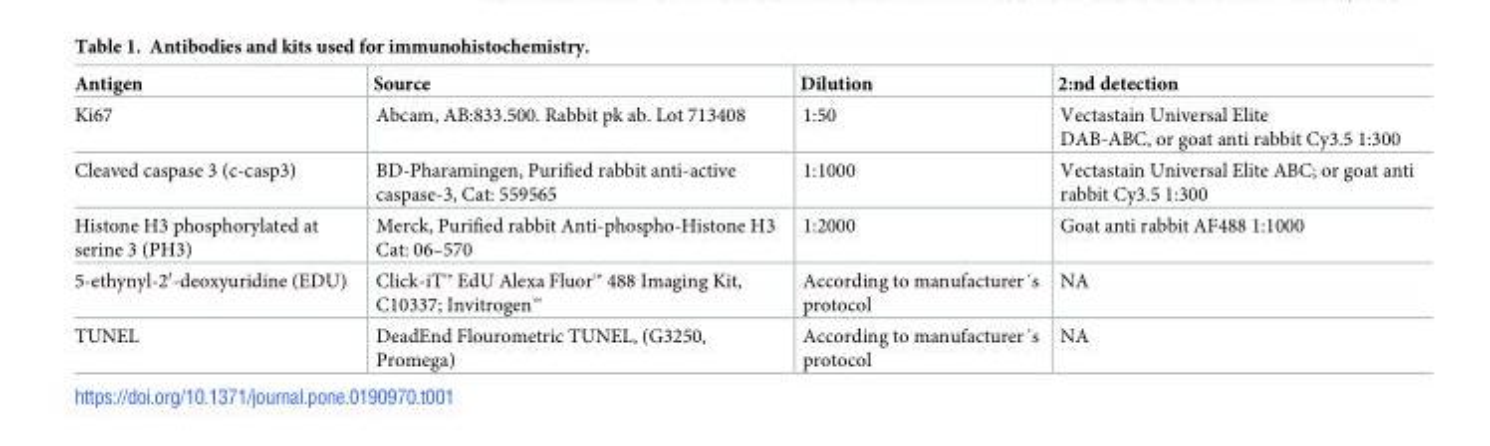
<table><thead><tr><td>Antigen</td><td>Source</td><td>Dilution</td><td>2:nd detection</td></tr></thead><tbody><tr><td>Ki67</td><td>Abcam, AB:833.500. Rabbit pk ab. Lot 713408</td><td>1:50</td><td>Vectastain Universal Elite DAB-ABC, or goat anti rabbit Cy3.5 1:300</td></tr><tr><td>Cleaved caspase 3 (c-casp3)</td><td>BD-Pharamingen, Purified rabbit anti-active caspase-3, Cat: 559565</td><td>1:1000</td><td>Vectastain Universal Elite ABC; or goat anti rabbit Cy3.5 1:300</td></tr><tr><td>Histone H3 phosphorylated at serine 3 (PH3)</td><td>Merck, Purified rabbit Anti-phospho-Histone H3 Cat: 06–570</td><td>1:2000</td><td>Goat anti rabbit AF488 1:1000</td></tr><tr><td>5-ethynyl-2′-deoxyuridine (EDU)</td><td>Click-iT™ EdU Alexa Fluor™ 488 Imaging Kit, C10337; Invitrogen™</td><td>According to manufacturer´s protocol</td><td>NA</td></tr><tr><td>TUNEL</td><td>DeadEnd Flourometric TUNEL, (G3250, Promega)</td><td>According to manufacturer´s protocol</td><td>NA</td></tr></tbody></table>